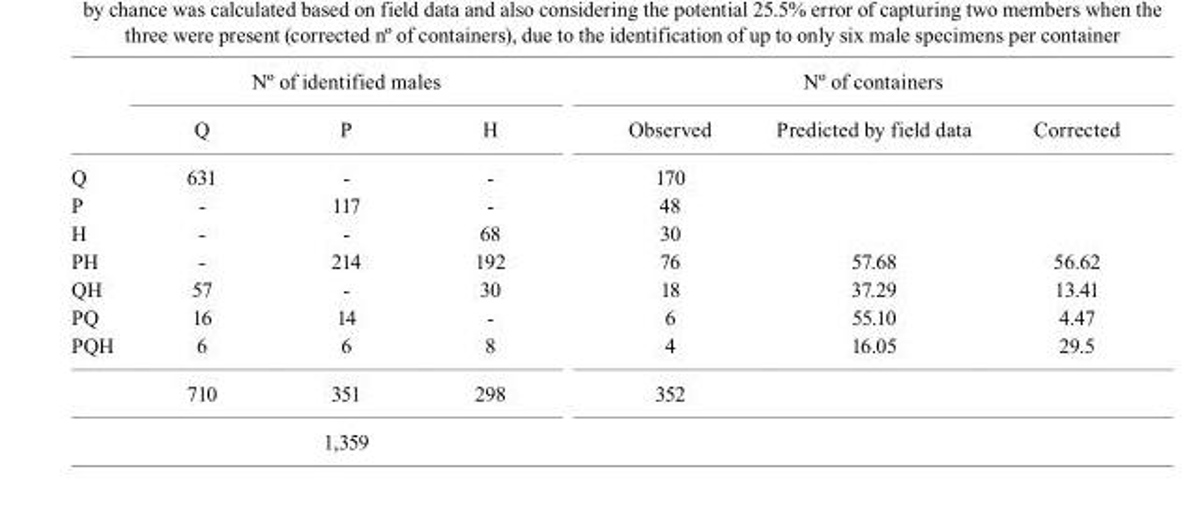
<table><thead><tr><td rowspan="2"></td><td colspan="3">Nº of identified males</td><td colspan="3">Nº of containers</td></tr><tr><td>Q</td><td>P</td><td>H</td><td>Observed</td><td>Predicted by field data</td><td>Corrected</td></tr></thead><tbody><tr><td>Q</td><td>631</td><td>-</td><td>-</td><td>170</td><td></td><td></td></tr><tr><td>P</td><td>-</td><td>117</td><td>-</td><td>48</td><td></td><td></td></tr><tr><td>H</td><td>-</td><td>-</td><td>68</td><td>30</td><td></td><td></td></tr><tr><td>PH</td><td>-</td><td>214</td><td>192</td><td>76</td><td>57.68</td><td>56.62</td></tr><tr><td>QH</td><td>57</td><td>-</td><td>30</td><td>18</td><td>37.29</td><td>13.41</td></tr><tr><td>PQ</td><td>16</td><td>14</td><td>-</td><td>6</td><td>55.10</td><td>4.47</td></tr><tr><td rowspan="3">PQH</td><td>6</td><td>6</td><td>8</td><td>4</td><td>16.05</td><td>29.5</td></tr><tr><td>710</td><td>351</td><td>298</td><td>352</td><td></td><td></td></tr><tr><td colspan="3">1,359</td><td></td><td></td><td></td></tr></tbody></table>